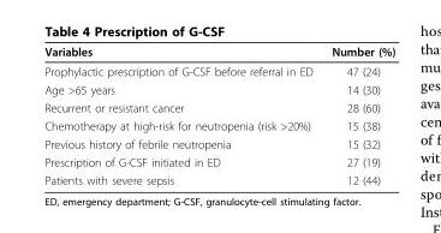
<table><thead><tr><td>Variables</td><td>Number (%)</td></tr></thead><tbody><tr><td>Prophylactic prescription of G-CSF before referral in ED</td><td>47 (24)</td></tr><tr><td>Age &gt;65 years</td><td>14 (30)</td></tr><tr><td>Recurrent or resistant cancer</td><td>28 (60)</td></tr><tr><td>Chemotherapy at high-risk for neutropenia (risk &gt;20%)</td><td>15 (38)</td></tr><tr><td>Previous history of febrile neutropenia</td><td>15 (32)</td></tr><tr><td>Prescription of G-CSF initiated in ED</td><td>27 (19)</td></tr><tr><td>Patients with severe sepsis</td><td>12 (44)</td></tr></tbody></table>